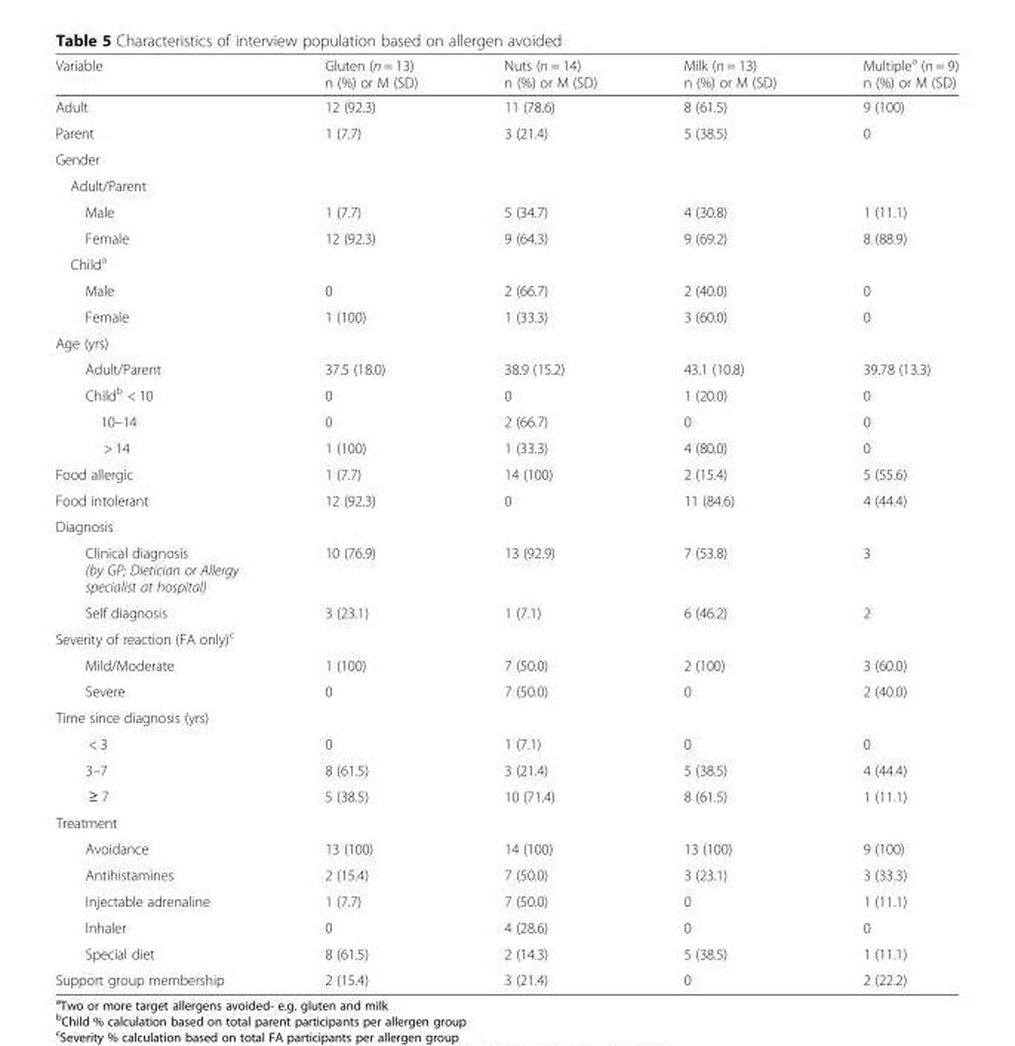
<table><thead><tr><td>Variable</td><td>Gluten (n = 13) n (%) or M (SD)</td><td>Nuts (n = 14) n (%) or M (SD)</td><td>Milk (n = 13) n (%) or M (SD)</td><td>Multiple<sup>a</sup> (n = 9) n (%) or M (SD)</td></tr></thead><tbody><tr><td>Adult</td><td>12 (92.3)</td><td>11 (78.6)</td><td>8 (61.5)</td><td>9 (100)</td></tr><tr><td>Parent</td><td>1 (7.7)</td><td>3 (21.4)</td><td>5 (38.5)</td><td>0</td></tr><tr><td colspan="5">Gender</td></tr><tr><td colspan="5">Adult/Parent</td></tr><tr><td>Male</td><td>1 (7.7)</td><td>5 (34.7)</td><td>4 (30.8)</td><td>1 (11.1)</td></tr><tr><td>Female</td><td>12 (92.3)</td><td>9 (64.3)</td><td>9 (69.2)</td><td>8 (88.9)</td></tr><tr><td colspan="5">Child<sup>a</sup></td></tr><tr><td>Male</td><td>0</td><td>2 (66.7)</td><td>2 (40.0)</td><td>0</td></tr><tr><td>Female</td><td>1 (100)</td><td>1 (33.3)</td><td>3 (60.0)</td><td>0</td></tr><tr><td colspan="5">Age (yrs)</td></tr><tr><td>Adult/Parent</td><td>37.5 (18.0)</td><td>38.9 (15.2)</td><td>43.1 (10.8)</td><td>39.78 (13.3)</td></tr><tr><td>Child<sup>b</sup> &lt; 10</td><td>0</td><td>0</td><td>1 (20.0)</td><td>0</td></tr><tr><td>10–14</td><td>0</td><td>2 (66.7)</td><td>0</td><td>0</td></tr><tr><td>&gt; 14</td><td>1 (100)</td><td>1 (33.3)</td><td>4 (80.0)</td><td>0</td></tr><tr><td>Food allergic</td><td>1 (7.7)</td><td>14 (100)</td><td>2 (15.4)</td><td>5 (55.6)</td></tr><tr><td>Food intolerant</td><td>12 (92.3)</td><td>0</td><td>11 (84.6)</td><td>4 (44.4)</td></tr><tr><td colspan="5">Diagnosis</td></tr><tr><td>Clinical diagnosis (by GP; Dietician or Allergy specialist at hospital)</td><td>10 (76.9)</td><td>13 (92.9)</td><td>7 (53.8)</td><td>3</td></tr><tr><td>Self diagnosis</td><td>3 (23.1)</td><td>1 (7.1)</td><td>6 (46.2)</td><td>2</td></tr><tr><td colspan="5">Severity of reaction (FA only)<sup>c</sup></td></tr><tr><td>Mild/Moderate</td><td>1 (100)</td><td>7 (50.0)</td><td>2 (100)</td><td>3 (60.0)</td></tr><tr><td>Severe</td><td>0</td><td>7 (50.0)</td><td>0</td><td>2 (40.0)</td></tr><tr><td colspan="5">Time since diagnosis (yrs)</td></tr><tr><td>&lt; 3</td><td>0</td><td>1 (7.1)</td><td>0</td><td>0</td></tr><tr><td>3–7</td><td>8 (61.5)</td><td>3 (21.4)</td><td>5 (38.5)</td><td>4 (44.4)</td></tr><tr><td>≥ 7</td><td>5 (38.5)</td><td>10 (71.4)</td><td>8 (61.5)</td><td>1 (11.1)</td></tr><tr><td colspan="5">Treatment</td></tr><tr><td>Avoidance</td><td>13 (100)</td><td>14 (100)</td><td>13 (100)</td><td>9 (100)</td></tr><tr><td>Antihistamines</td><td>2 (15.4)</td><td>7 (50.0)</td><td>3 (23.1)</td><td>3 (33.3)</td></tr><tr><td>Injectable adrenaline</td><td>1 (7.7)</td><td>7 (50.0)</td><td>0</td><td>1 (11.1)</td></tr><tr><td>Inhaler</td><td>0</td><td>4 (28.6)</td><td>0</td><td>0</td></tr><tr><td>Special diet</td><td>8 (61.5)</td><td>2 (14.3)</td><td>5 (38.5)</td><td>1 (11.1)</td></tr><tr><td>Support group membership</td><td>2 (15.4)</td><td>3 (21.4)</td><td>0</td><td>2 (22.2)</td></tr></tbody></table>